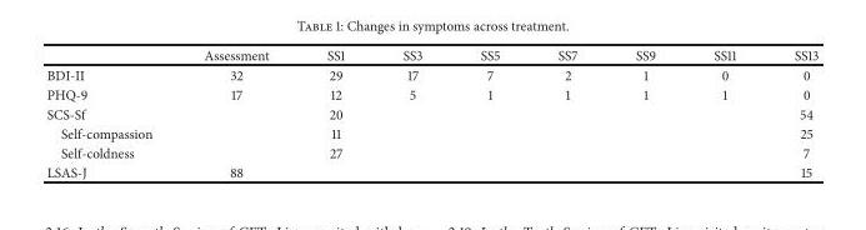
<table><thead><tr><td></td><td>Assessment</td><td>SS1</td><td>SS3</td><td>SS5</td><td>SS7</td><td>SS9</td><td>SS11</td><td>SS13</td></tr></thead><tbody><tr><td>BDI-II</td><td>32</td><td>29</td><td>17</td><td>7</td><td>2</td><td>1</td><td>0</td><td>0</td></tr><tr><td>PHQ-9</td><td>17</td><td>12</td><td>5</td><td>1</td><td>1</td><td>1</td><td>1</td><td>0</td></tr><tr><td>SCS-Sf</td><td></td><td>20</td><td></td><td></td><td></td><td></td><td></td><td>54</td></tr><tr><td>Self-compassion</td><td></td><td>11</td><td></td><td></td><td></td><td></td><td></td><td>25</td></tr><tr><td>Self-coldness</td><td></td><td>27</td><td></td><td></td><td></td><td></td><td></td><td>7</td></tr><tr><td>LSAS-J</td><td>88</td><td></td><td></td><td></td><td></td><td></td><td></td><td>15</td></tr></tbody></table>